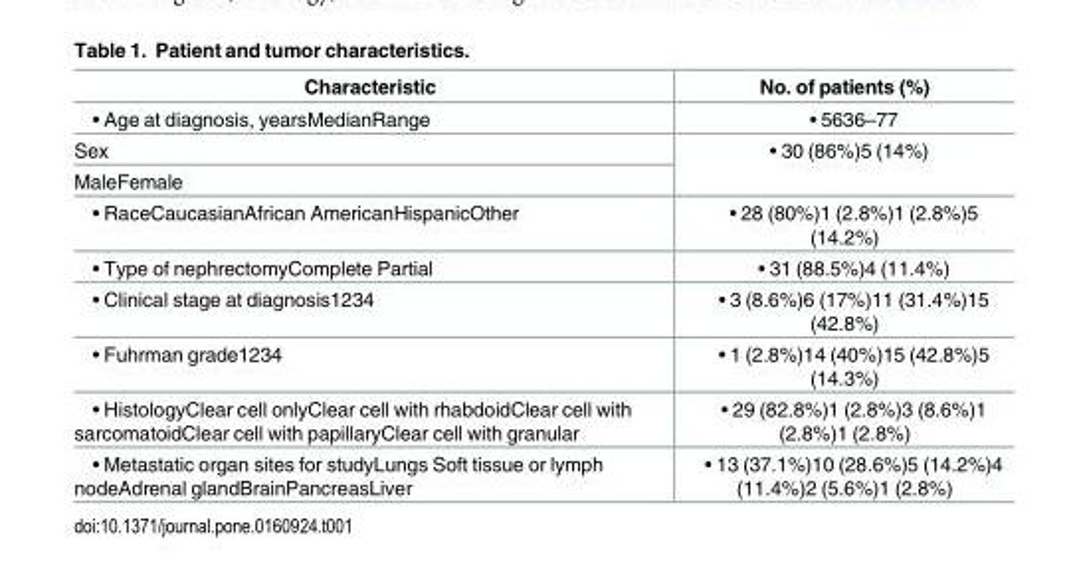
<table><thead><tr><td>Characteristic</td><td>No. of patients (%)</td></tr></thead><tbody><tr><td>• Age at diagnosis, yearsMedianRange</td><td>• 5636–77</td></tr><tr><td>Sex</td><td rowspan="2">• 30 (86%)5 (14%)</td></tr><tr><td>MaleFemale</td></tr><tr><td>• RaceCaucasianAfrican AmericanHispanicOther</td><td>• 28 (80%)1 (2.8%)1 (2.8%)5 (14.2%)</td></tr><tr><td>• Type of nephrectomyComplete Partial</td><td>• 31 (88.5%)4 (11.4%)</td></tr><tr><td>• Clinical stage at diagnosis1234</td><td>• 3 (8.6%)6 (17%)11 (31.4%)15 (42.8%)</td></tr><tr><td>• Fuhrman grade1234</td><td>• 1 (2.8%)14 (40%)15 (42.8%)5 (14.3%)</td></tr><tr><td>• HistologyClear cell onlyClear cell with rhabdoidClear cell with sarcomatoidClear cell with papillaryClear cell with granular</td><td>• 29 (82.8%)1 (2.8%)3 (8.6%)1 (2.8%)1 (2.8%)</td></tr><tr><td>• Metastatic organ sites for studyLungs Soft tissue or lymph nodeAdrenal glandBrainPancreasLiver</td><td>• 13 (37.1%)10 (28.6%)5 (14.2%)4 (11.4%)2 (5.6%)1 (2.8%)</td></tr></tbody></table>